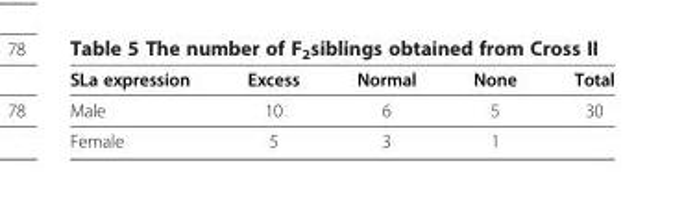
<table><thead><tr><td>SLa expression</td><td>Excess</td><td>Normal</td><td>None</td><td>Total</td></tr></thead><tbody><tr><td>Male</td><td>10</td><td>6</td><td>5</td><td>30</td></tr><tr><td>Female</td><td>5</td><td>3</td><td>1</td><td></td></tr></tbody></table>